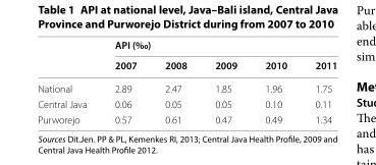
<table><thead><tr><td rowspan="2"></td><td colspan="5">API (‰)</td></tr><tr><td>2007</td><td>2008</td><td>2009</td><td>2010</td><td>2011</td></tr></thead><tbody><tr><td>National</td><td>2.89</td><td>2.47</td><td>1.85</td><td>1.96</td><td>1.75</td></tr><tr><td>Central Java</td><td>0.06</td><td>0.05</td><td>0.05</td><td>0.10</td><td>0.11</td></tr><tr><td>Purworejo</td><td>0.57</td><td>0.61</td><td>0.47</td><td>0.49</td><td>1.34</td></tr></tbody></table>